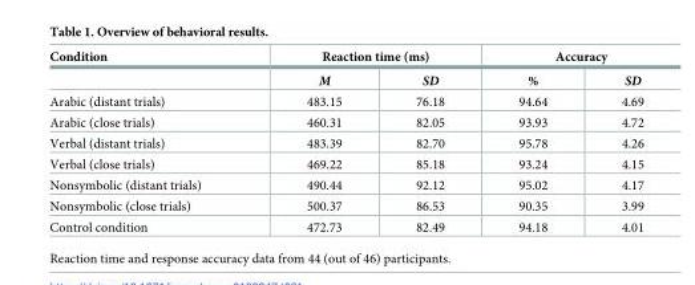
<table><thead><tr><td rowspan="2">Condition</td><td colspan="2">Reaction time (ms)</td><td colspan="2">Accuracy</td></tr><tr><td>M</td><td>SD</td><td>%</td><td>SD</td></tr></thead><tbody><tr><td>Arabic (distant trials)</td><td>483.15</td><td>76.18</td><td>94.64</td><td>4.69</td></tr><tr><td>Arabic (close trials)</td><td>460.31</td><td>82.05</td><td>93.93</td><td>4.72</td></tr><tr><td>Verbal (distant trials)</td><td>483.39</td><td>82.70</td><td>95.78</td><td>4.26</td></tr><tr><td>Verbal (close trials)</td><td>469.22</td><td>85.18</td><td>93.24</td><td>4.15</td></tr><tr><td>Nonsymbolic (distant trials)</td><td>490.44</td><td>92.12</td><td>95.02</td><td>4.17</td></tr><tr><td>Nonsymbolic (close trials)</td><td>500.37</td><td>86.53</td><td>90.35</td><td>3.99</td></tr><tr><td>Control condition</td><td>472.73</td><td>82.49</td><td>94.18</td><td>4.01</td></tr></tbody></table>